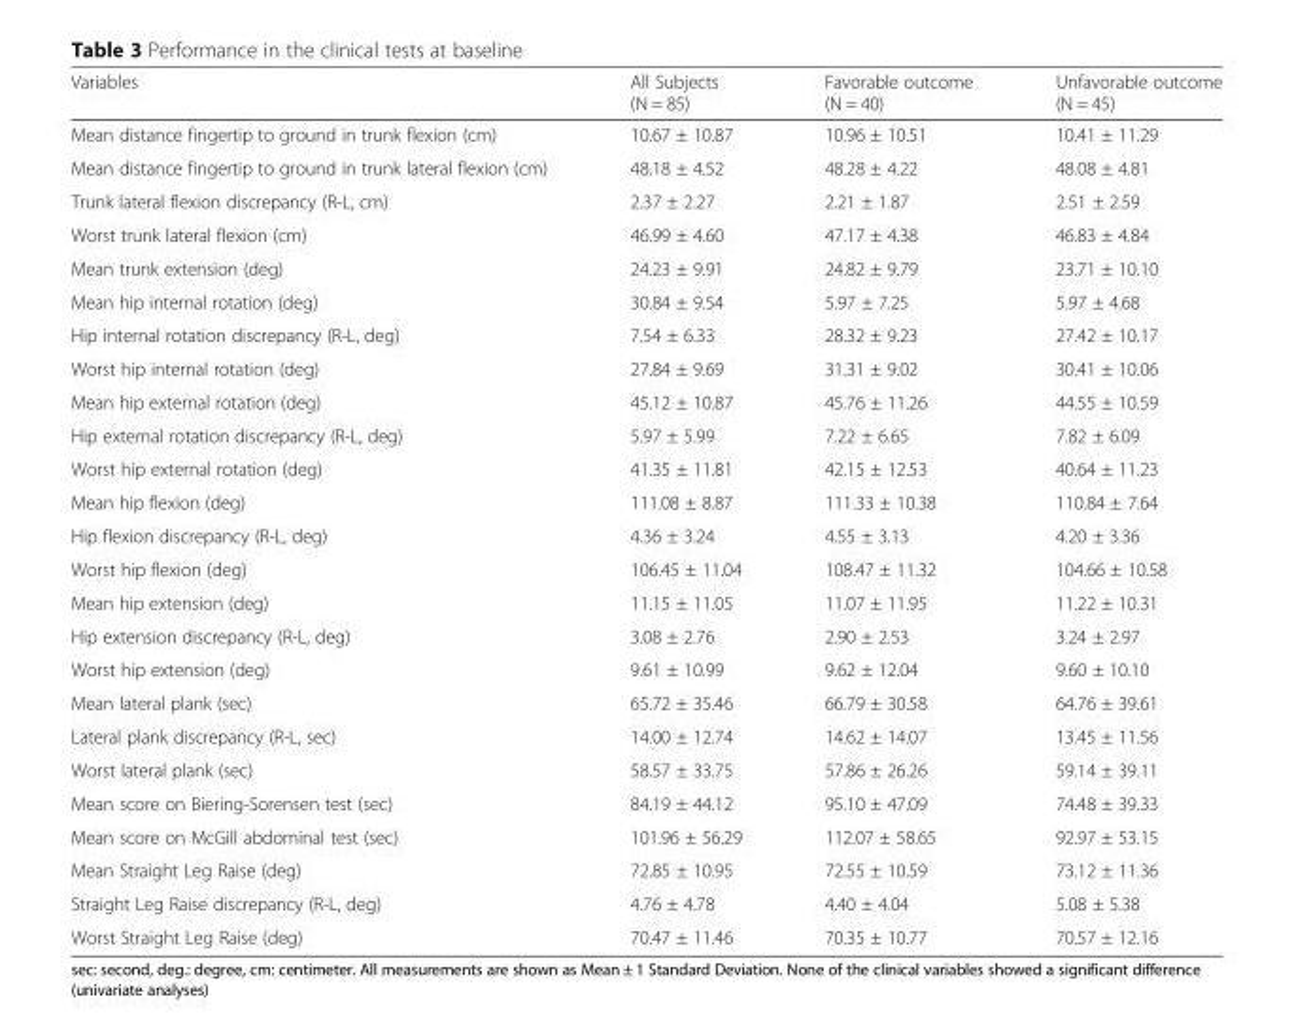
<table><thead><tr><td>Variables</td><td>All Subjects (N = 85)</td><td>Favorable outcome (N = 40)</td><td>Unfavorable outcome (N = 45)</td></tr></thead><tbody><tr><td>Mean distance fingertip to ground in trunk flexion (cm)</td><td>10.67 ± 10.87</td><td>10.96 ± 10.51</td><td>10.41 ± 11.29</td></tr><tr><td>Mean distance fingertip to ground in trunk lateral flexion (cm)</td><td>48.18 ± 4.52</td><td>48.28 ± 4.22</td><td>48.08 ± 4.81</td></tr><tr><td>Trunk lateral flexion discrepancy (R-L, cm)</td><td>2.37 ± 2.27</td><td>2.21 ± 1.87</td><td>2.51 ± 2.59</td></tr><tr><td>Worst trunk lateral flexion (cm)</td><td>46.99 ± 4.60</td><td>47.17 ± 4.38</td><td>46.83 ± 4.84</td></tr><tr><td>Mean trunk extension (deg)</td><td>24.23 ± 9.91</td><td>24.82 ± 9.79</td><td>23.71 ± 10.10</td></tr><tr><td>Mean hip internal rotation (deg)</td><td>30.84 ± 9.54</td><td>5.97 ± 7.25</td><td>5.97 ± 4.68</td></tr><tr><td>Hip internal rotation discrepancy (R-L, deg)</td><td>7.54 ± 6.33</td><td>28.32 ± 9.23</td><td>27.42 ± 10.17</td></tr><tr><td>Worst hip internal rotation (deg)</td><td>27.84 ± 9.69</td><td>31.31 ± 9.02</td><td>30.41 ± 10.06</td></tr><tr><td>Mean hip external rotation (deg)</td><td>45.12 ± 10.87</td><td>45.76 ± 11.26</td><td>44.55 ± 10.59</td></tr><tr><td>Hip external rotation discrepancy (R-L, deg)</td><td>5.97 ± 5.99</td><td>7.22 ± 6.65</td><td>7.82 ± 6.09</td></tr><tr><td>Worst hip external rotation (deg)</td><td>41.35 ± 11.81</td><td>42.15 ± 12.53</td><td>40.64 ± 11.23</td></tr><tr><td>Mean hip flexion (deg)</td><td>111.08 ± 8.87</td><td>111.33 ± 10.38</td><td>110.84 ± 7.64</td></tr><tr><td>Hip flexion discrepancy (R-L, deg)</td><td>4.36 ± 3.24</td><td>4.55 ± 3.13</td><td>4.20 ± 3.36</td></tr><tr><td>Worst hip flexion (deg)</td><td>106.45 ± 11.04</td><td>108.47 ± 11.32</td><td>104.66 ± 10.58</td></tr><tr><td>Mean hip extension (deg)</td><td>11.15 ± 11.05</td><td>11.07 ± 11.95</td><td>11.22 ± 10.31</td></tr><tr><td>Hip extension discrepancy (R-L, deg)</td><td>3.08 ± 2.76</td><td>2.90 ± 2.53</td><td>3.24 ± 2.97</td></tr><tr><td>Worst hip extension (deg)</td><td>9.61 ± 10.99</td><td>9.62 ± 12.04</td><td>9.60 ± 10.10</td></tr><tr><td>Mean lateral plank (sec)</td><td>65.72 ± 35.46</td><td>66.79 ± 30.58</td><td>64.76 ± 39.61</td></tr><tr><td>Lateral plank discrepancy (R-L, sec)</td><td>14.00 ± 12.74</td><td>14.62 ± 14.07</td><td>13.45 ± 11.56</td></tr><tr><td>Worst lateral plank (sec)</td><td>58.57 ± 33.75</td><td>57.86 ± 26.26</td><td>59.14 ± 39.11</td></tr><tr><td>Mean score on Biering-Sorensen test (sec)</td><td>84.19 ± 44.12</td><td>95.10 ± 47.09</td><td>74.48 ± 39.33</td></tr><tr><td>Mean score on McGill abdominal test (sec)</td><td>101.96 ± 56.29</td><td>112.07 ± 58.65</td><td>92.97 ± 53.15</td></tr><tr><td>Mean Straight Leg Raise (deg)</td><td>72.85 ± 10.95</td><td>72.55 ± 10.59</td><td>73.12 ± 11.36</td></tr><tr><td>Straight Leg Raise discrepancy (R-L, deg)</td><td>4.76 ± 4.78</td><td>4.40 ± 4.04</td><td>5.08 ± 5.38</td></tr><tr><td>Worst Straight Leg Raise (deg)</td><td>70.47 ± 11.46</td><td>70.35 ± 10.77</td><td>70.57 ± 12.16</td></tr></tbody></table>